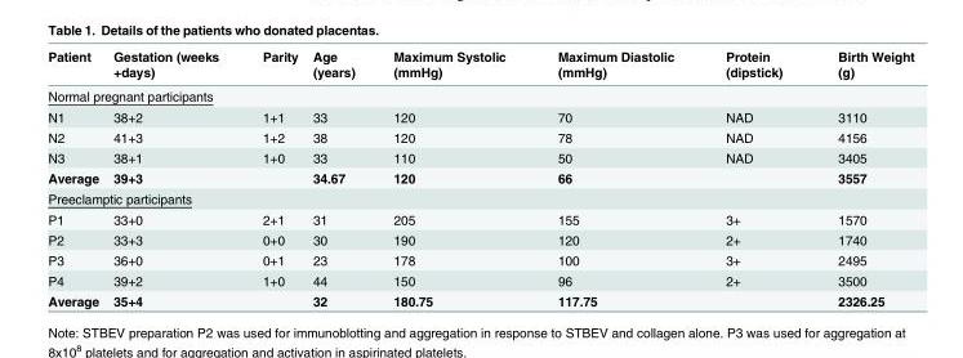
<table><thead><tr><td>Patient</td><td>Gestation (weeks +days)</td><td>Parity</td><td>Age (years)</td><td>Maximum Systolic (mmHg)</td><td>Maximum Diastolic (mmHg)</td><td>Protein (dipstick)</td><td>Birth Weight (g)</td></tr></thead><tbody><tr><td colspan="8">Normal pregnant participants</td></tr><tr><td>N1</td><td>38+2</td><td>1+1</td><td>33</td><td>120</td><td>70</td><td>NAD</td><td>3110</td></tr><tr><td>N2</td><td>41+3</td><td>1+2</td><td>38</td><td>120</td><td>78</td><td>NAD</td><td>4156</td></tr><tr><td>N3</td><td>38+1</td><td>1+0</td><td>33</td><td>110</td><td>50</td><td>NAD</td><td>3405</td></tr><tr><td>Average</td><td>39+3</td><td></td><td>34.67</td><td>120</td><td>66</td><td></td><td>3557</td></tr><tr><td colspan="8">Preeclamptic participants</td></tr><tr><td>P1</td><td>33+0</td><td>2+1</td><td>31</td><td>205</td><td>155</td><td>3+</td><td>1570</td></tr><tr><td>P2</td><td>33+3</td><td>0+0</td><td>30</td><td>190</td><td>120</td><td>2+</td><td>1740</td></tr><tr><td>P3</td><td>36+0</td><td>0+1</td><td>23</td><td>178</td><td>100</td><td>3+</td><td>2495</td></tr><tr><td>P4</td><td>39+2</td><td>1+0</td><td>44</td><td>150</td><td>96</td><td>2+</td><td>3500</td></tr><tr><td>Average</td><td>35+4</td><td></td><td>32</td><td>180.75</td><td>117.75</td><td></td><td>2326.25</td></tr></tbody></table>